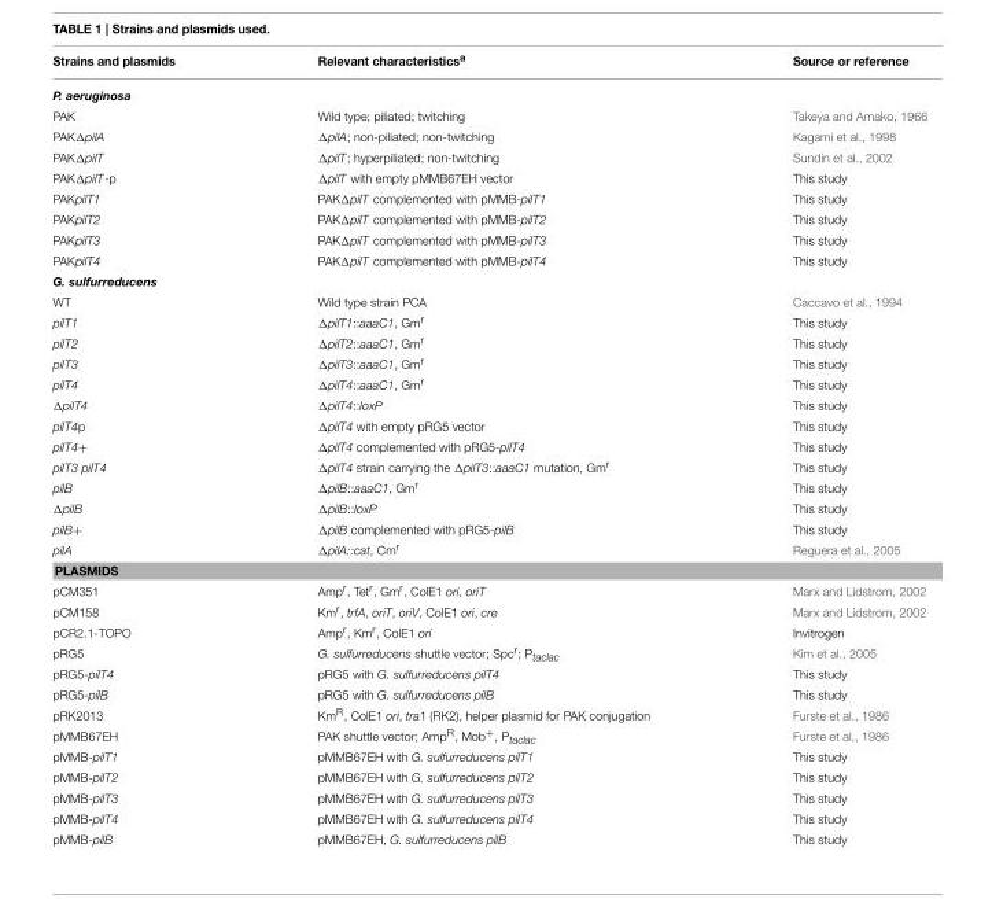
<table><thead><tr><td>Strains and plasmids</td><td>Relevant characteristics<sup>a</sup></td><td>Source or reference</td></tr></thead><tbody><tr><td colspan="3">P. aeruginosa</td></tr><tr><td>PAK</td><td>Wild type; piliated; twitching</td><td>Takeya and Amako, 1966</td></tr><tr><td>PAKΔpilA</td><td>ΔpilA; non-piliated; non-twitching</td><td>Kagami et al., 1998</td></tr><tr><td>PAKΔpilT</td><td>ΔpilT; hyperpiliated; non-twitching</td><td>Sundin et al., 2002</td></tr><tr><td>PAKΔpilT-p</td><td>ΔpilT with empty pMMB67EH vector</td><td>This study</td></tr><tr><td>PAKpilT1</td><td>PAKΔpilT complemented with pMMB-pilT1</td><td>This study</td></tr><tr><td>PAKpilT2</td><td>PAKΔpilT complemented with pMMB-pilT2</td><td>This study</td></tr><tr><td>PAKpilT3</td><td>PAKΔpilT complemented with pMMB-pilT3</td><td>This study</td></tr><tr><td>PAKpilT4</td><td>PAKΔpilT complemented with pMMB-pilT4</td><td>This study</td></tr><tr><td colspan="3">G. sulfurreducens</td></tr><tr><td>WT</td><td>Wild type strain PCA</td><td>Caccavo et al., 1994</td></tr><tr><td>pilT1</td><td>ΔpilT1::aaaC1, Gm<sup>r</sup></td><td>This study</td></tr><tr><td>pilT2</td><td>ΔpilT2::aaaC1, Gm<sup>r</sup></td><td>This study</td></tr><tr><td>pilT3</td><td>ΔpilT3::aaaC1, Gm<sup>r</sup></td><td>This study</td></tr><tr><td>pilT4</td><td>ΔpilT4::aaaC1, Gm<sup>r</sup></td><td>This study</td></tr><tr><td>ΔpilT4</td><td>ΔpilT4::loxP</td><td>This study</td></tr><tr><td>pilT4p</td><td>ΔpilT4 with empty pRG5 vector</td><td>This study</td></tr><tr><td>pilT4+</td><td>ΔpilT4 complemented with pRG5-pilT4</td><td>This study</td></tr><tr><td>pilT3 pilT4</td><td>ΔpilT4 strain carrying the ΔpilT3::aaaC1 mutation, Gm<sup>r</sup></td><td>This study</td></tr><tr><td>pilB</td><td>ΔpilB::aaaC1, Gm<sup>r</sup></td><td>This study</td></tr><tr><td>ΔpilB</td><td>ΔpilB::loxP</td><td>This study</td></tr><tr><td>pilB+</td><td>ΔpilB complemented with pRG5-pilB</td><td>This study</td></tr><tr><td>pilA</td><td>ΔpilA::cat, Cm<sup>r</sup></td><td>Reguera et al., 2005</td></tr><tr><td colspan="3">PLASMIDS</td></tr><tr><td>pCM351</td><td>Amp<sup>r</sup>, Tet<sup>r</sup>, Gm<sup>r</sup>, ColE1 ori, oriT</td><td>Marx and Lidstrom, 2002</td></tr><tr><td>pCM158</td><td>Km<sup>r</sup>, trfA, oriT, oriV, ColE1 ori, cre</td><td>Marx and Lidstrom, 2002</td></tr><tr><td>pCR2.1-TOPO</td><td>Amp<sup>r</sup>, Km<sup>r</sup>, ColE1 ori</td><td>Invitrogen</td></tr><tr><td>pRG5</td><td>G. sulfurreducens shuttle vector; Spcr; Ptaclac</td><td>Kim et al., 2005</td></tr><tr><td>pRG5-pilT4</td><td>pRG5 with G. sulfurreducens pilT4</td><td>This study</td></tr><tr><td>pRG5-pilB</td><td>pRG5 with G. sulfurreducens pilB</td><td>This study</td></tr><tr><td>pRK2013</td><td>Km<sup>R</sup>, ColE1 ori, tra1 (RK2), helper plasmid for PAK conjugation</td><td>Furste et al., 1986</td></tr><tr><td>pMMB67EH</td><td>PAK shuttle vector; AmpR, Mob+, Ptaclac</td><td>Furste et al., 1986</td></tr><tr><td>pMMB-pilT1</td><td>pMMB67EH with G. sulfurreducens pilT1</td><td>This study</td></tr><tr><td>pMMB-pilT2</td><td>pMMB67EH with G. sulfurreducens pilT2</td><td>This study</td></tr><tr><td>pMMB-pilT3</td><td>pMMB67EH with G. sulfurreducens pilT3</td><td>This study</td></tr><tr><td>pMMB-pilT4</td><td>pMMB67EH with G. sulfurreducens pilT4</td><td>This study</td></tr><tr><td>pMMB-pilB</td><td>pMMB67EH, G. sulfurreducens pilB</td><td>This study</td></tr></tbody></table>